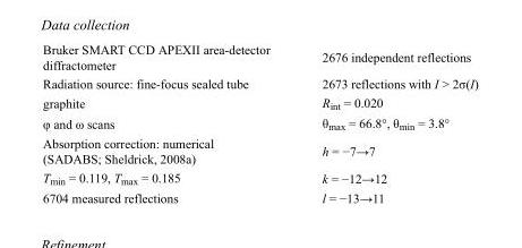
<table><tbody><tr><td>Bruker SMART CCD APEXII area-detector diffractometer</td><td>2676 independent reflections</td></tr><tr><td>Radiation source: fine-focus sealed tube</td><td>2673 reflections with I &gt; 2σ(I)</td></tr><tr><td>graphite</td><td>R<sub>int</sub> = 0.020</td></tr><tr><td>φ and ω scans</td><td>θ<sub>max</sub> = 66.8°, θ<sub>min</sub> = 3.8°</td></tr><tr><td>Absorption correction: numerical (SADABS; Sheldrick, 2008a)</td><td>h = −7→7</td></tr><tr><td>T<sub>min</sub> = 0.119, T<sub>max</sub> = 0.185</td><td>k = −12→12</td></tr><tr><td>6704 measured reflections</td><td>l = −13→11</td></tr></tbody></table>